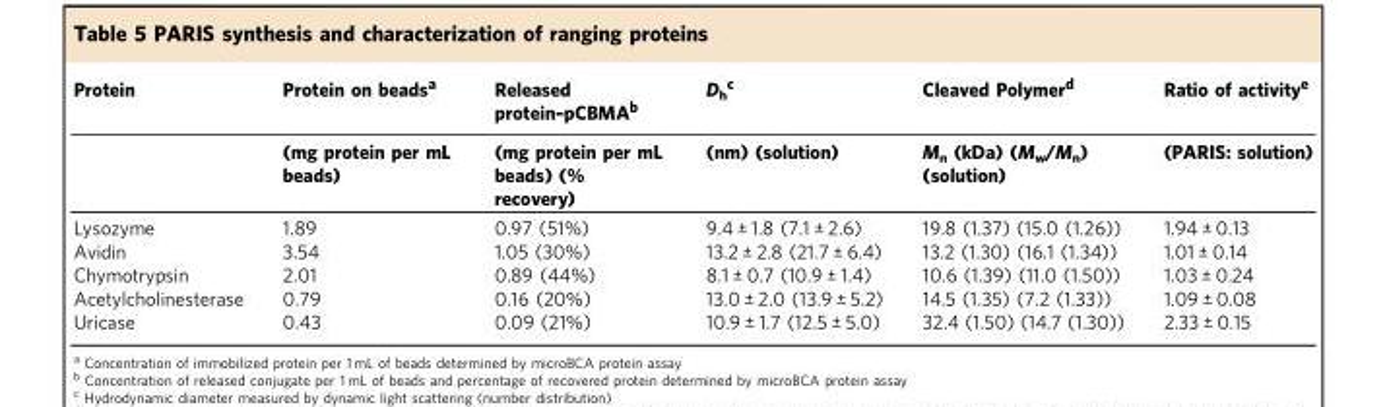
<table><thead><tr><td rowspan="2">Protein</td><td rowspan="2">Protein on beads<sup>a</sup> (mg protein per mL beads)</td><td rowspan="2">Released protein–pCBMA<sup>b</sup> (mg protein per mL beads) (% recovery)</td><td rowspan="2">D<sub>h</sub><sup>c</sup> (nm) (solution)</td><td rowspan="2">Cleaved Polymer<sup>d</sup> M<sub>n</sub> (kDa) (M<sub>w</sub>/M<sub>n</sub>) (solution)</td><td rowspan="2">Ratio of activity<sup>e</sup> (PARIS: solution)</td></tr><tr></tr></thead><tbody><tr><td>Lysozyme</td><td>1.89</td><td>0.97 (51%)</td><td>9.4 ± 1.8 (7.1 ± 2.6)</td><td>19.8 (1.37) (15.0 (1.26))</td><td>1.94 ± 0.13</td></tr><tr><td>Avidin</td><td>3.54</td><td>1.05 (30%)</td><td>13.2 ± 2.8 (21.7 ± 6.4)</td><td>13.2 (1.30) (16.1 (1.34))</td><td>1.01 ± 0.14</td></tr><tr><td>Chymotrypsin</td><td>2.01</td><td>0.89 (44%)</td><td>8.1 ± 0.7 (10.9 ± 1.4)</td><td>10.6 (1.39) (11.0 (1.50))</td><td>1.03 ± 0.24</td></tr><tr><td>Acetylcholinesterase</td><td>0.79</td><td>0.16 (20%)</td><td>13.0 ± 2.0 (13.9 ± 5.2)</td><td>14.5 (1.35) (7.2 (1.33))</td><td>1.09 ± 0.08</td></tr><tr><td>Uricase</td><td>0.43</td><td>0.09 (21%)</td><td>10.9 ± 1.7 (12.5 ± 5.0)</td><td>32.4 (1.50) (14.7 (1.30))</td><td>2.33 ± 0.15</td></tr></tbody></table>